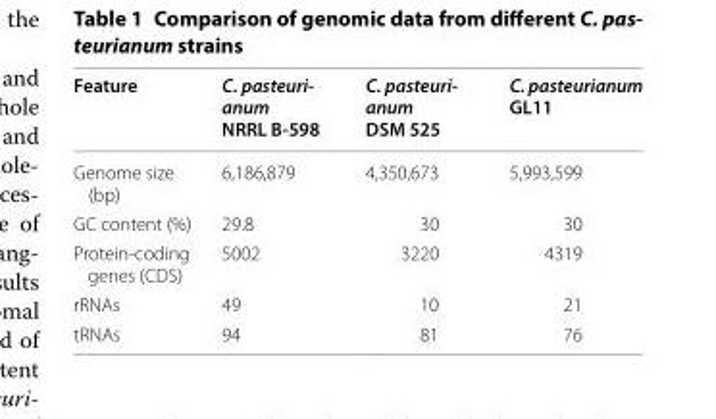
<table><thead><tr><td>Feature</td><td>C. pasteuri- anum NRRL B-598</td><td>C. pasteuri- anum DSM 525</td><td>C. pasteurianum GL11</td></tr></thead><tbody><tr><td>Genome size (bp)</td><td>6,186,879</td><td>4,350,673</td><td>5,993,599</td></tr><tr><td>GC content (%)</td><td>29.8</td><td>30</td><td>30</td></tr><tr><td>Protein-coding genes (CDS)</td><td>5002</td><td>3220</td><td>4319</td></tr><tr><td>rRNAs</td><td>49</td><td>10</td><td>21</td></tr><tr><td>tRNAs</td><td>94</td><td>81</td><td>76</td></tr></tbody></table>